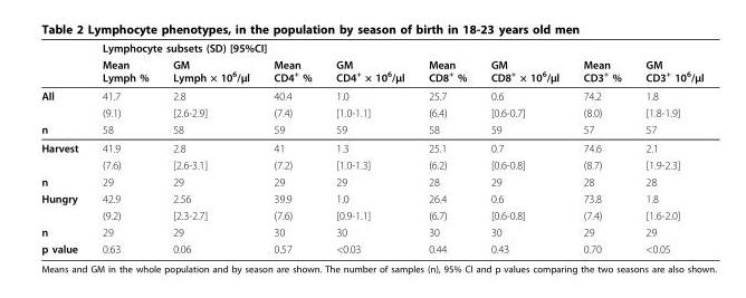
<table><thead><tr><td rowspan="2"></td><td colspan="8">Lymphocyte subsets (SD) [95%CI]</td></tr><tr><td>Mean Lymph %</td><td>GM Lymph × 10<sup>6</sup>/μl</td><td>Mean CD4<sup>+</sup> %</td><td>GM CD4<sup>+</sup> × 10<sup>6</sup>/μl</td><td>Mean CD8<sup>+</sup> %</td><td>GM CD8<sup>+</sup> × 10<sup>6</sup>/μl</td><td>Mean CD3<sup>+</sup> %</td><td>GM CD3<sup>+</sup> 10<sup>6</sup>/μl</td></tr></thead><tbody><tr><td rowspan="2">All</td><td>41.7</td><td>2.8</td><td>40.4</td><td>1.0</td><td>25.7</td><td>0.6</td><td>74.2</td><td>1.8</td></tr><tr><td>(9.1)</td><td>[2.6-2.9]</td><td>(7.4)</td><td>[1.0-1.1]</td><td>(6.4)</td><td>[0.6-0.7]</td><td>(8.0)</td><td>[1.8-1.9]</td></tr><tr><td>n</td><td>58</td><td>58</td><td>59</td><td>59</td><td>58</td><td>59</td><td>57</td><td>57</td></tr><tr><td rowspan="2">Harvest</td><td>41.9</td><td>2.8</td><td>41</td><td>1.3</td><td>25.1</td><td>0.7</td><td>74.6</td><td>2.1</td></tr><tr><td>(7.6)</td><td>[2.6-3.1]</td><td>(7.2)</td><td>[1.0-1.3]</td><td>(6.2)</td><td>[0.6-0.8]</td><td>(8.7)</td><td>[1.9-2.3]</td></tr><tr><td>n</td><td>29</td><td>29</td><td>29</td><td>29</td><td>28</td><td>29</td><td>28</td><td>28</td></tr><tr><td rowspan="2">Hungry</td><td>42.9</td><td>2.56</td><td>39.9</td><td>1.0</td><td>26.4</td><td>0.6</td><td>73.8</td><td>1.8</td></tr><tr><td>(9.2)</td><td>[2.3-2.7]</td><td>(7.6)</td><td>[0.9-1.1]</td><td>(6.7)</td><td>[0.6-0.8]</td><td>(7.4)</td><td>[1.6-2.0]</td></tr><tr><td>n</td><td>29</td><td>29</td><td>30</td><td>30</td><td>30</td><td>30</td><td>29</td><td>29</td></tr><tr><td>p value</td><td>0.63</td><td>0.06</td><td>0.57</td><td>&lt;0.03</td><td>0.44</td><td>0.43</td><td>0.70</td><td>&lt;0.05</td></tr></tbody></table>